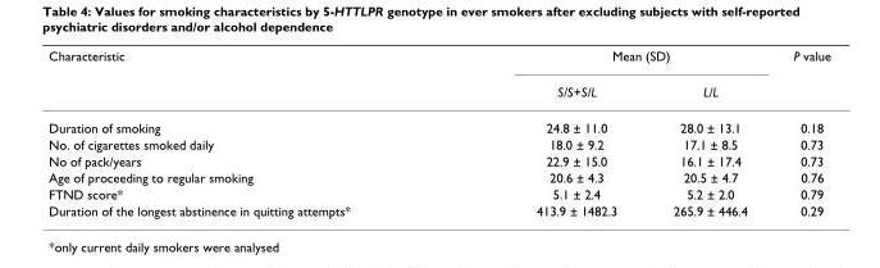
<table><thead><tr><td rowspan="2">Characteristic</td><td colspan="2">Mean (SD)</td><td rowspan="2">P value</td></tr><tr><td>S/S+S/L</td><td>L/L</td></tr></thead><tbody><tr><td>Duration of smoking</td><td>24.8 ± 11.0</td><td>28.0 ± 13.1</td><td>0.18</td></tr><tr><td>No. of cigarettes smoked daily</td><td>18.0 ± 9.2</td><td>17.1 ± 8.5</td><td>0.73</td></tr><tr><td>No of pack/years</td><td>22.9 ± 15.0</td><td>16.1 ± 17.4</td><td>0.73</td></tr><tr><td>Age of proceeding to regular smoking</td><td>20.6 ± 4.3</td><td>20.5 ± 4.7</td><td>0.76</td></tr><tr><td>FTND score*</td><td>5.1 ± 2.4</td><td>5.2 ± 2.0</td><td>0.79</td></tr><tr><td>Duration of the longest abstinence in quitting attempts*</td><td>413.9 ± 1482.3</td><td>265.9 ± 446.4</td><td>0.29</td></tr></tbody></table>